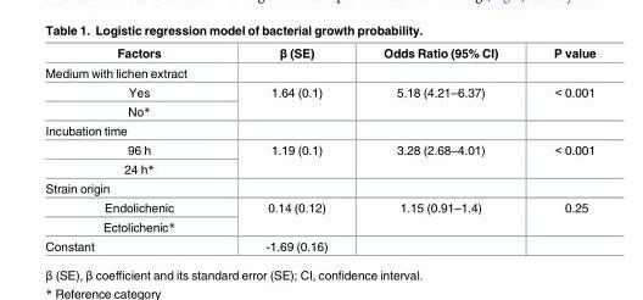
<table><thead><tr><td>Factors</td><td>β (SE)</td><td>Odds Ratio (95% CI)</td><td>P value</td></tr></thead><tbody><tr><td colspan="4">Medium with lichen extract</td></tr><tr><td>Yes</td><td rowspan="2">1.64 (0.1)</td><td rowspan="2">5.18 (4.21–6.37)</td><td rowspan="2">&lt; 0.001</td></tr><tr><td>No*</td></tr><tr><td colspan="4">Incubation time</td></tr><tr><td>96 h</td><td rowspan="2">1.19 (0.1)</td><td rowspan="2">3.28 (2.68–4.01)</td><td rowspan="2">&lt; 0.001</td></tr><tr><td>24 h*</td></tr><tr><td colspan="4">Strain origin</td></tr><tr><td>Endolichenic</td><td rowspan="2">0.14 (0.12)</td><td rowspan="2">1.15 (0.91–1.4)</td><td rowspan="2">0.25</td></tr><tr><td>Ectolichenic*</td></tr><tr><td>Constant</td><td>-1.69 (0.16)</td><td></td><td></td></tr></tbody></table>